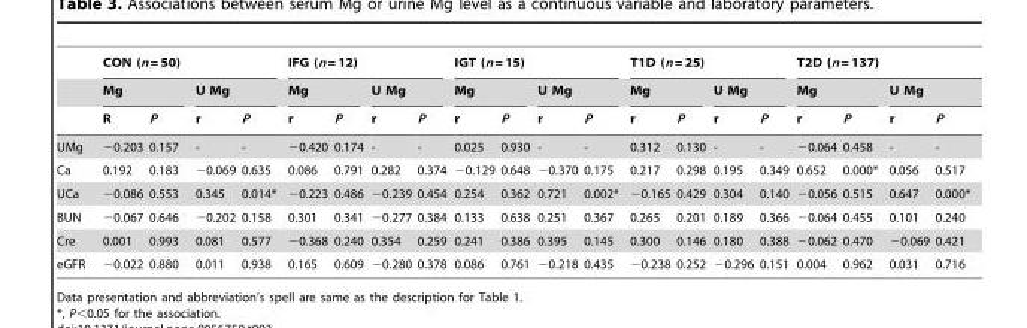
<table><thead><tr><td rowspan="3"></td><td colspan="4">CON (n = 50)</td><td colspan="4">IFG (n = 12)</td><td colspan="4">IGT (n = 15)</td><td colspan="4">T1D (n = 25)</td><td colspan="4">T2D (n = 137)</td></tr><tr><td colspan="2">Mg</td><td colspan="2">U Mg</td><td colspan="2">Mg</td><td colspan="2">U Mg</td><td colspan="2">Mg</td><td colspan="2">U Mg</td><td colspan="2">Mg</td><td colspan="2">U Mg</td><td colspan="2">Mg</td><td colspan="2">U Mg</td></tr><tr><td>R</td><td>P</td><td>r</td><td>P</td><td>r</td><td>P</td><td>r</td><td>P</td><td>r</td><td>P</td><td>r</td><td>P</td><td>r</td><td>P</td><td>r</td><td>P</td><td>r</td><td>P</td><td>r</td><td>P</td></tr></thead><tbody><tr><td>UMg</td><td>−0.203</td><td>0.157</td><td>-</td><td>-</td><td>−0.420</td><td>0.174</td><td>-</td><td>-</td><td>0.025</td><td>0.930</td><td>-</td><td>-</td><td>0.312</td><td>0.130</td><td>-</td><td>-</td><td>−0.064</td><td>0.458</td><td>-</td><td>-</td></tr><tr><td>Ca</td><td>0.192</td><td>0.183</td><td>−0.069</td><td>0.635</td><td>0.086</td><td>0.791</td><td>0.282</td><td>0.374</td><td>−0.129</td><td>0.648</td><td>−0.370</td><td>0.175</td><td>0.217</td><td>0.298</td><td>0.195</td><td>0.349</td><td>0.652</td><td>0.000*</td><td>0.056</td><td>0.517</td></tr><tr><td>UCa</td><td>−0.086</td><td>0.553</td><td>0.345</td><td>0.014*</td><td>−0.223</td><td>0.486</td><td>−0.239</td><td>0.454</td><td>0.254</td><td>0.362</td><td>0.721</td><td>0.002*</td><td>−0.165</td><td>0.429</td><td>0.304</td><td>0.140</td><td>−0.056</td><td>0.515</td><td>0.647</td><td>0.000*</td></tr><tr><td>BUN</td><td>−0.067</td><td>0.646</td><td>−0.202</td><td>0.158</td><td>0.301</td><td>0.341</td><td>−0.277</td><td>0.384</td><td>0.133</td><td>0.638</td><td>0.251</td><td>0.367</td><td>0.265</td><td>0.201</td><td>0.189</td><td>0.366</td><td>−0.064</td><td>0.455</td><td>0.101</td><td>0.240</td></tr><tr><td>Cre</td><td>0.001</td><td>0.993</td><td>0.081</td><td>0.577</td><td>−0.368</td><td>0.240</td><td>0.354</td><td>0.259</td><td>0.241</td><td>0.386</td><td>0.395</td><td>0.145</td><td>0.300</td><td>0.146</td><td>0.180</td><td>0.388</td><td>−0.062</td><td>0.470</td><td>−0.069</td><td>0.421</td></tr><tr><td>eGFR</td><td>−0.022</td><td>0.880</td><td>0.011</td><td>0.938</td><td>0.165</td><td>0.609</td><td>−0.280</td><td>0.378</td><td>0.086</td><td>0.761</td><td>−0.218</td><td>0.435</td><td>−0.238</td><td>0.252</td><td>−0.296</td><td>0.151</td><td>0.004</td><td>0.962</td><td>0.031</td><td>0.716</td></tr></tbody></table>